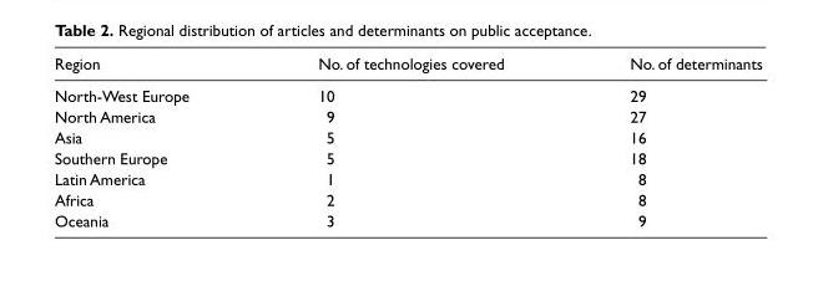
<table><thead><tr><td>Region</td><td>No. of technologies covered</td><td>No. of determinants</td></tr></thead><tbody><tr><td>North-West Europe</td><td>10</td><td>29</td></tr><tr><td>North America</td><td>9</td><td>27</td></tr><tr><td>Asia</td><td>5</td><td>16</td></tr><tr><td>Southern Europe</td><td>5</td><td>18</td></tr><tr><td>Latin America</td><td>1</td><td>8</td></tr><tr><td>Africa</td><td>2</td><td>8</td></tr><tr><td>Oceania</td><td>3</td><td>9</td></tr></tbody></table>